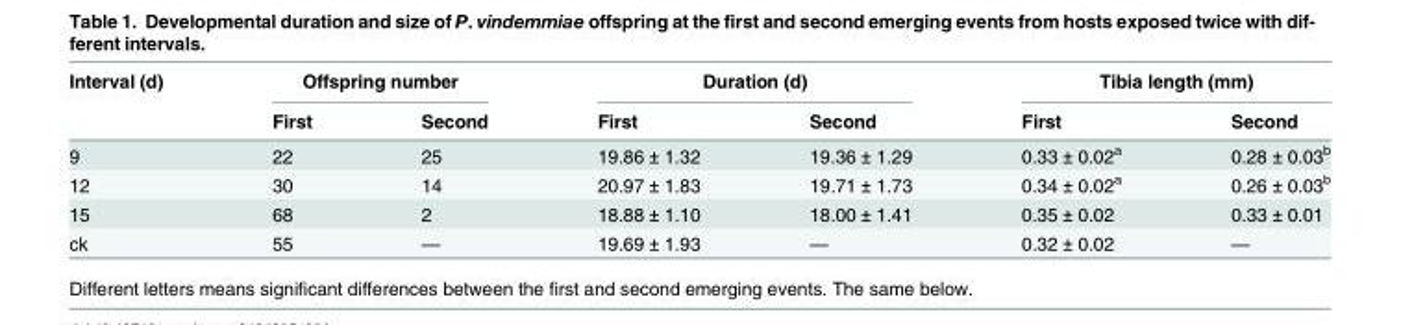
<table><thead><tr><td rowspan="2">Interval (d)</td><td colspan="2">Offspring number</td><td colspan="2">Duration (d)</td><td colspan="2">Tibia length (mm)</td></tr><tr><td>First</td><td>Second</td><td>First</td><td>Second</td><td>First</td><td>Second</td></tr></thead><tbody><tr><td>9</td><td>22</td><td>25</td><td>19.86 ± 1.32</td><td>19.36 ± 1.29</td><td>0.33 ± 0.02<sup>a</sup></td><td>0.28 ± 0.03<sup>b</sup></td></tr><tr><td>12</td><td>30</td><td>14</td><td>20.97 ± 1.83</td><td>19.71 ± 1.73</td><td>0.34 ± 0.02<sup>a</sup></td><td>0.26 ± 0.03<sup>b</sup></td></tr><tr><td>15</td><td>68</td><td>2</td><td>18.88 ± 1.10</td><td>18.00 ± 1.41</td><td>0.35 ± 0.02</td><td>0.33 ± 0.01</td></tr><tr><td>ck</td><td>55</td><td>—</td><td>19.69 ± 1.93</td><td>—</td><td>0.32 ± 0.02</td><td>—</td></tr></tbody></table>